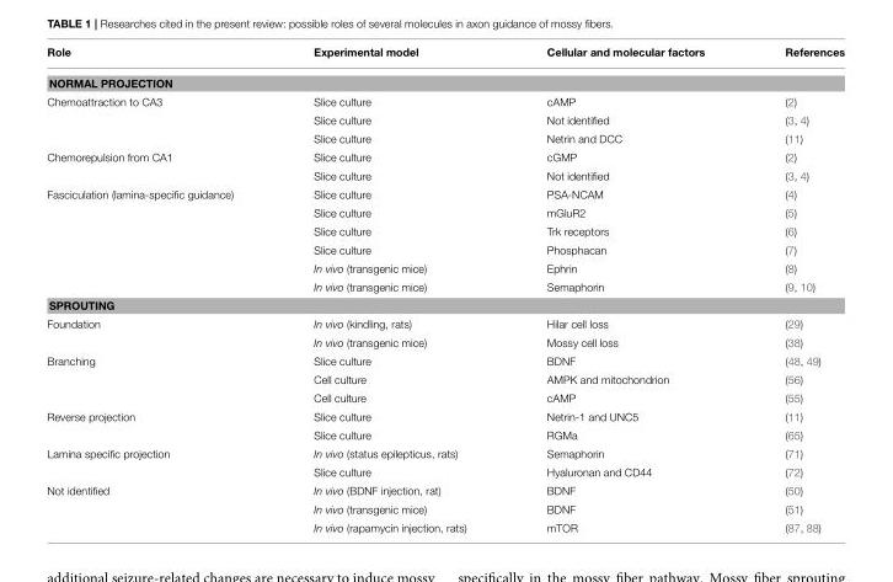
<table><thead><tr><td>Role</td><td>Experimental model</td><td>Cellular and molecular factors</td><td>References</td></tr></thead><tbody><tr><td colspan="4">NORMAL PROJECTION</td></tr><tr><td rowspan="3">Chemoattraction to CA3</td><td>Slice culture</td><td>cAMP</td><td>(2)</td></tr><tr><td>Slice culture</td><td>Not identified</td><td>(3, 4)</td></tr><tr><td>Slice culture</td><td>Netrin and DCC</td><td>(11)</td></tr><tr><td rowspan="2">Chemorepulsion from CA1</td><td>Slice culture</td><td>cGMP</td><td>(2)</td></tr><tr><td>Slice culture</td><td>Not identified</td><td>(3, 4)</td></tr><tr><td rowspan="6">Fasciculation (lamina-specific guidance)</td><td>Slice culture</td><td>PSA-NCAM</td><td>(4)</td></tr><tr><td>Slice culture</td><td>mGluR2</td><td>(5)</td></tr><tr><td>Slice culture</td><td>Trk receptors</td><td>(6)</td></tr><tr><td>Slice culture</td><td>Phosphacan</td><td>(7)</td></tr><tr><td>In vivo (transgenic mice)</td><td>Ephrin</td><td>(8)</td></tr><tr><td>In vivo (transgenic mice)</td><td>Semaphorin</td><td>(9, 10)</td></tr><tr><td colspan="4">SPROUTING</td></tr><tr><td rowspan="2">Foundation</td><td>In vivo (kindling, rats)</td><td>Hilar cell loss</td><td>(29)</td></tr><tr><td>In vivo (transgenic mice)</td><td>Mossy cell loss</td><td>(38)</td></tr><tr><td rowspan="3">Branching</td><td>Slice culture</td><td>BDNF</td><td>(48, 49)</td></tr><tr><td>Cell culture</td><td>AMPK and mitochondrion</td><td>(56)</td></tr><tr><td>Cell culture</td><td>cAMP</td><td>(55)</td></tr><tr><td rowspan="2">Reverse projection</td><td>Slice culture</td><td>Netrin-1 and UNC5</td><td>(11)</td></tr><tr><td>Slice culture</td><td>RGMa</td><td>(65)</td></tr><tr><td rowspan="2">Lamina specific projection</td><td>In vivo (status epilepticus, rats)</td><td>Semaphorin</td><td>(71)</td></tr><tr><td>Slice culture</td><td>Hyaluronan and CD44</td><td>(72)</td></tr><tr><td rowspan="3">Not identified</td><td>In vivo (BDNF injection, rat)</td><td>BDNF</td><td>(50)</td></tr><tr><td>In vivo (transgenic mice)</td><td>BDNF</td><td>(51)</td></tr><tr><td>In vivo (rapamycin injection, rats)</td><td>mTOR</td><td>(87, 88)</td></tr></tbody></table>